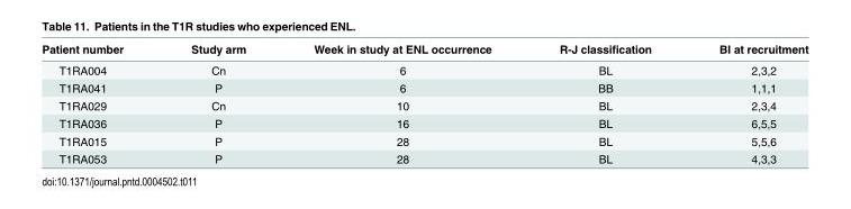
<table><thead><tr><td>Patient number</td><td>Study arm</td><td>Week in study at ENL occurrence</td><td>R-J classification</td><td>BI at recruitment</td></tr></thead><tbody><tr><td>T1RA004</td><td>Cn</td><td>6</td><td>BL</td><td>2,3,2</td></tr><tr><td>T1RA041</td><td>P</td><td>6</td><td>BB</td><td>1,1,1</td></tr><tr><td>T1RA029</td><td>Cn</td><td>10</td><td>BL</td><td>2,3,4</td></tr><tr><td>T1RA036</td><td>P</td><td>16</td><td>BL</td><td>6,5,5</td></tr><tr><td>T1RA015</td><td>P</td><td>28</td><td>BL</td><td>5,5,6</td></tr><tr><td>T1RA053</td><td>P</td><td>28</td><td>BL</td><td>4,3,3</td></tr></tbody></table>